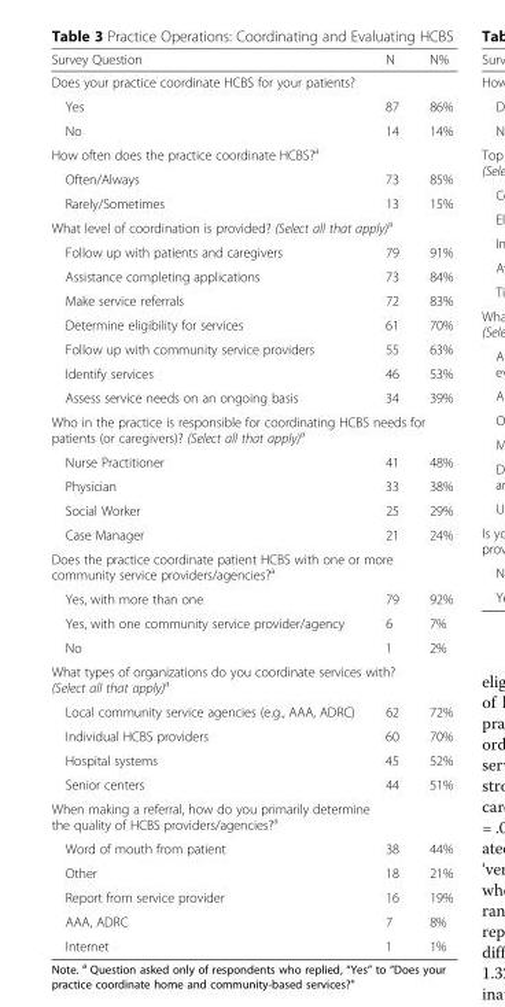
<table><thead><tr><td>Survey Question</td><td>N</td><td>N%</td></tr></thead><tbody><tr><td colspan="3">Does your practice coordinate HCBS for your patients?</td></tr><tr><td>Yes</td><td>87</td><td>86%</td></tr><tr><td>No</td><td>14</td><td>14%</td></tr><tr><td colspan="3">How often does the practice coordinate HCBS?<sup>a</sup></td></tr><tr><td>Often/Always</td><td>73</td><td>85%</td></tr><tr><td>Rarely/Sometimes</td><td>13</td><td>15%</td></tr><tr><td colspan="3">What level of coordination is provided? (Select all that apply)<sup>a</sup></td></tr><tr><td>Follow up with patients and caregivers</td><td>79</td><td>91%</td></tr><tr><td>Assistance completing applications</td><td>73</td><td>84%</td></tr><tr><td>Make service referrals</td><td>72</td><td>83%</td></tr><tr><td>Determine eligibility for services</td><td>61</td><td>70%</td></tr><tr><td>Follow up with community service providers</td><td>55</td><td>63%</td></tr><tr><td>Identify services</td><td>46</td><td>53%</td></tr><tr><td>Assess service needs on an ongoing basis</td><td>34</td><td>39%</td></tr><tr><td colspan="3">Who in the practice is responsible for coordinating HCBS needs for patients (or caregivers)? (Select all that apply)<sup>a</sup></td></tr><tr><td>Nurse Practitioner</td><td>41</td><td>48%</td></tr><tr><td>Physician</td><td>33</td><td>38%</td></tr><tr><td>Social Worker</td><td>25</td><td>29%</td></tr><tr><td>Case Manager</td><td>21</td><td>24%</td></tr><tr><td colspan="3">Does the practice coordinate patient HCBS with one or more community service providers/agencies?<sup>a</sup></td></tr><tr><td>Yes, with more than one</td><td>79</td><td>92%</td></tr><tr><td>Yes, with one community service provider/agency</td><td>6</td><td>7%</td></tr><tr><td>No</td><td>1</td><td>2%</td></tr><tr><td colspan="3">What types of organizations do you coordinate services with? (Select all that apply)<sup>a</sup></td></tr><tr><td>Local community service agencies (e.g., AAA, ADRC)</td><td>62</td><td>72%</td></tr><tr><td>Individual HCBS providers</td><td>60</td><td>70%</td></tr><tr><td>Hospital systems</td><td>45</td><td>52%</td></tr><tr><td>Senior centers</td><td>44</td><td>51%</td></tr><tr><td colspan="3">When making a referral, how do you primarily determine the quality of HCBS providers/agencies?<sup>a</sup></td></tr><tr><td>Word of mouth from patient</td><td>38</td><td>44%</td></tr><tr><td>Other</td><td>18</td><td>21%</td></tr><tr><td>Report from service provider</td><td>16</td><td>19%</td></tr><tr><td>AAA, ADRC</td><td>7</td><td>8%</td></tr><tr><td>Internet</td><td>1</td><td>1%</td></tr></tbody></table>